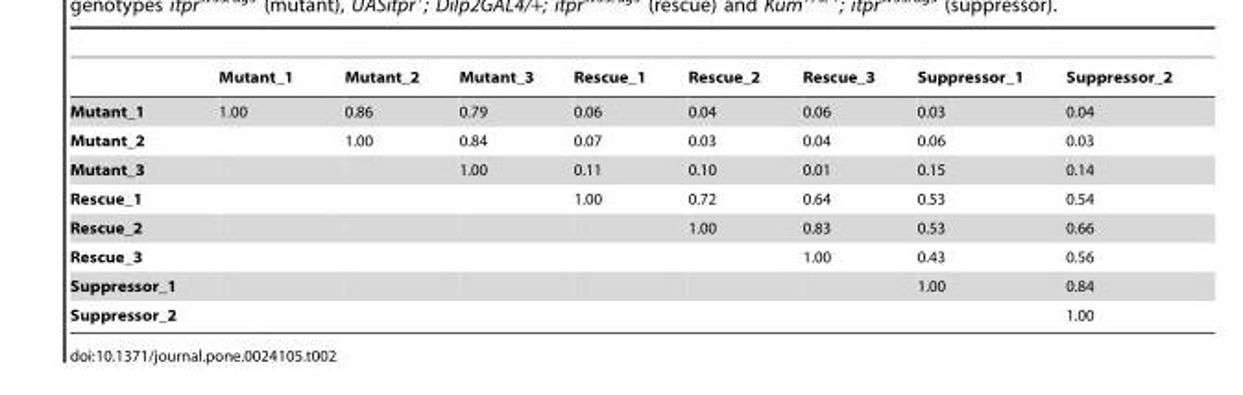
<table><thead><tr><td></td><td>Mutant_1</td><td>Mutant_2</td><td>Mutant_3</td><td>Rescue_1</td><td>Rescue_2</td><td>Rescue_3</td><td>Suppressor_1</td><td>Suppressor_2</td></tr></thead><tbody><tr><td>Mutant_1</td><td>1.00</td><td>0.86</td><td>0.79</td><td>0.06</td><td>0.04</td><td>0.06</td><td>0.03</td><td>0.04</td></tr><tr><td>Mutant_2</td><td></td><td>1.00</td><td>0.84</td><td>0.07</td><td>0.03</td><td>0.04</td><td>0.06</td><td>0.03</td></tr><tr><td>Mutant_3</td><td></td><td></td><td>1.00</td><td>0.11</td><td>0.10</td><td>0.01</td><td>0.15</td><td>0.14</td></tr><tr><td>Rescue_1</td><td></td><td></td><td></td><td>1.00</td><td>0.72</td><td>0.64</td><td>0.53</td><td>0.54</td></tr><tr><td>Rescue_2</td><td></td><td></td><td></td><td></td><td>1.00</td><td>0.83</td><td>0.53</td><td>0.66</td></tr><tr><td>Rescue_3</td><td></td><td></td><td></td><td></td><td></td><td>1.00</td><td>0.43</td><td>0.56</td></tr><tr><td>Suppressor_1</td><td></td><td></td><td></td><td></td><td></td><td></td><td>1.00</td><td>0.84</td></tr><tr><td>Suppressor_2</td><td></td><td></td><td></td><td></td><td></td><td></td><td></td><td>1.00</td></tr></tbody></table>